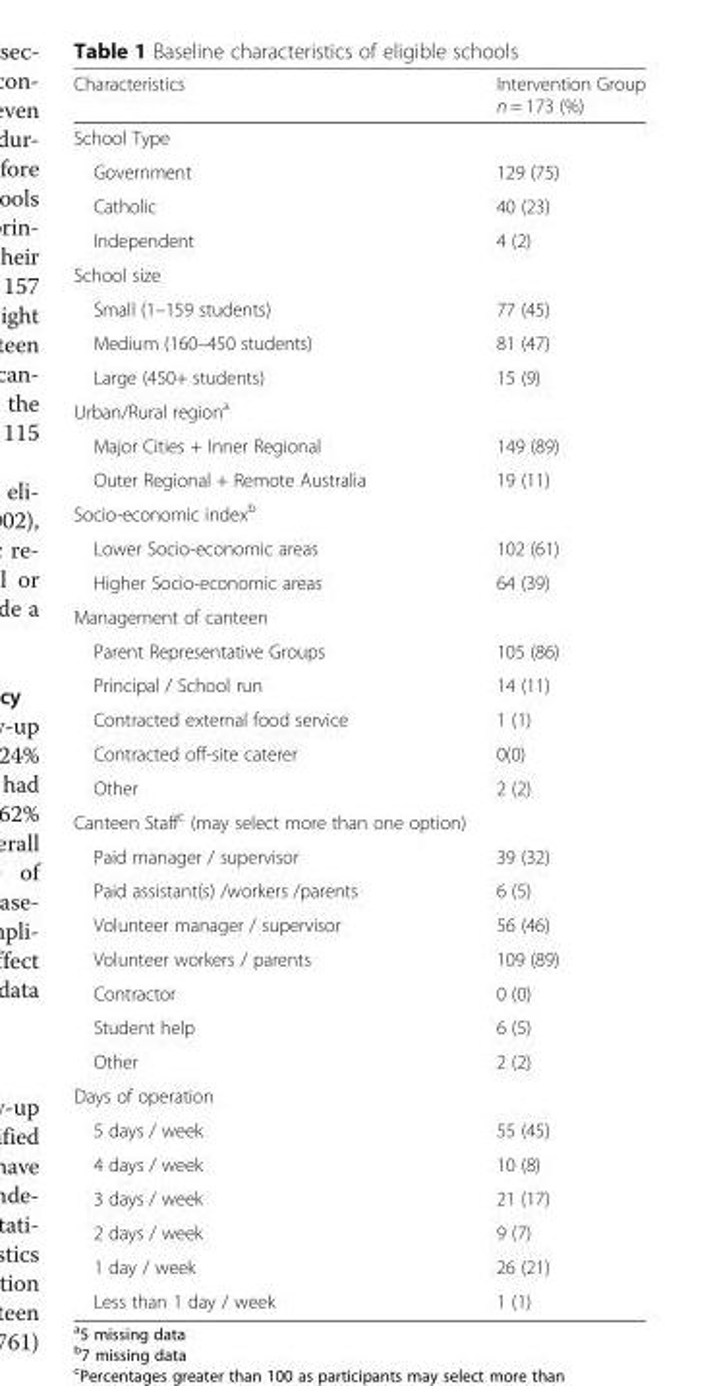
<table><thead><tr><td>Characteristics</td><td>Intervention Group n = 173 (%)</td></tr></thead><tbody><tr><td colspan="2">School Type</td></tr><tr><td>Government</td><td>129 (75)</td></tr><tr><td>Catholic</td><td>40 (23)</td></tr><tr><td>Independent</td><td>4 (2)</td></tr><tr><td colspan="2">School size</td></tr><tr><td>Small (1–159 students)</td><td>77 (45)</td></tr><tr><td>Medium (160–450 students)</td><td>81 (47)</td></tr><tr><td>Large (450+ students)</td><td>15 (9)</td></tr><tr><td colspan="2">Urban/Rural region<sup>a</sup></td></tr><tr><td>Major Cities + Inner Regional</td><td>149 (89)</td></tr><tr><td>Outer Regional + Remote Australia</td><td>19 (11)</td></tr><tr><td colspan="2">Socio-economic index<sup>b</sup></td></tr><tr><td>Lower Socio-economic areas</td><td>102 (61)</td></tr><tr><td>Higher Socio-economic areas</td><td>64 (39)</td></tr><tr><td colspan="2">Management of canteen</td></tr><tr><td>Parent Representative Groups</td><td>105 (86)</td></tr><tr><td>Principal / School run</td><td>14 (11)</td></tr><tr><td>Contracted external food service</td><td>1 (1)</td></tr><tr><td>Contracted off-site caterer</td><td>0(0)</td></tr><tr><td>Other</td><td>2 (2)</td></tr><tr><td colspan="2">Canteen Staff<sup>c</sup> (may select more than one option)</td></tr><tr><td>Paid manager / supervisor</td><td>39 (32)</td></tr><tr><td>Paid assistant(s) /workers /parents</td><td>6 (5)</td></tr><tr><td>Volunteer manager / supervisor</td><td>56 (46)</td></tr><tr><td>Volunteer workers / parents</td><td>109 (89)</td></tr><tr><td>Contractor</td><td>0 (0)</td></tr><tr><td>Student help</td><td>6 (5)</td></tr><tr><td>Other</td><td>2 (2)</td></tr><tr><td colspan="2">Days of operation</td></tr><tr><td>5 days / week</td><td>55 (45)</td></tr><tr><td>4 days / week</td><td>10 (8)</td></tr><tr><td>3 days / week</td><td>21 (17)</td></tr><tr><td>2 days / week</td><td>9 (7)</td></tr><tr><td>1 day / week</td><td>26 (21)</td></tr><tr><td>Less than 1 day / week</td><td>1 (1)</td></tr></tbody></table>